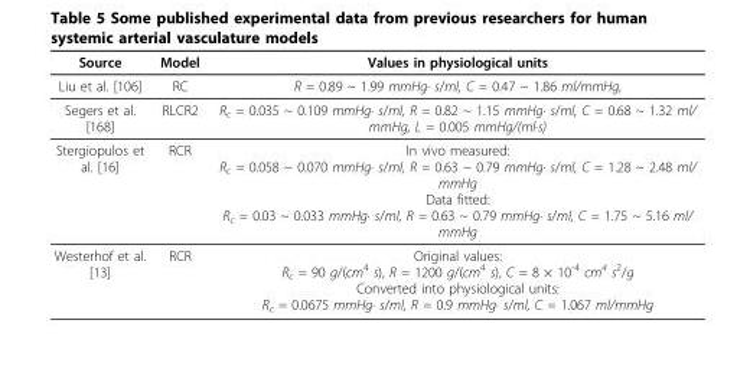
<table><thead><tr><td>Source</td><td>Model</td><td>Values in physiological units</td></tr></thead><tbody><tr><td>Liu et al. [106]</td><td>RC</td><td>R = 0.89 ~ 1.99 mmHg· s/ml, C = 0.47 ~ 1.86 ml/mmHg,</td></tr><tr><td>Segers et al. [168]</td><td>RLCR2</td><td>R<sub>c</sub> = 0.035 ~ 0.109 mmHg· s/ml, R = 0.82 ~ 1.15 mmHg· s/ml, C = 0.68 ~ 1.32 ml/ mmHg, L = 0.005 mmHg/(ml·s)</td></tr><tr><td>Stergiopulos et al. [16]</td><td>RCR</td><td>In vivo measured: R<sub>c</sub> = 0.058 ~ 0.070 mmHg· s/ml, R = 0.63 ~ 0.79 mmHg· s/ml, C = 1.28 ~ 2.48 ml/ mmHg Data fitted: R<sub>c</sub> = 0.03 ~ 0.033 mmHg· s/ml, R = 0.63 ~ 0.79 mmHg· s/ml, C = 1.75 ~ 5.16 ml/ mmHg</td></tr><tr><td>Westerhof et al. [13]</td><td>RCR</td><td>Original values: Rc = 90 g/(cm4 s), R = 1200 g/(cm4 s), C = 8 × 10-4 cm4 s2/g Converted into physiological units: Rc = 0.0675 mmHg· s/ml, R = 0.9 mmHg· s/ml, C = 1.067 ml/mmHg</td></tr></tbody></table>